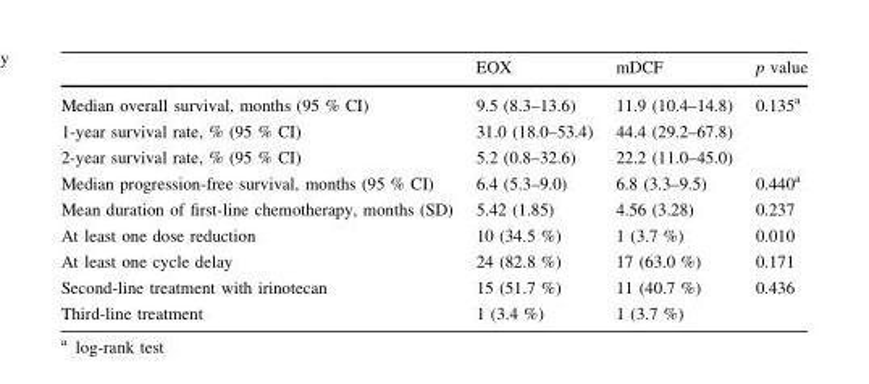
<table><thead><tr><td></td><td>EOX</td><td>mDCF</td><td>p value</td></tr></thead><tbody><tr><td>Median overall survival, months (95 % CI)</td><td>9.5 (8.3–13.6)</td><td>11.9 (10.4–14.8)</td><td>0.135<sup>a</sup></td></tr><tr><td>1-year survival rate, % (95 % CI)</td><td>31.0 (18.0–53.4)</td><td>44.4 (29.2–67.8)</td><td></td></tr><tr><td>2-year survival rate, % (95 % CI)</td><td>5.2 (0.8–32.6)</td><td>22.2 (11.0–45.0)</td><td></td></tr><tr><td>Median progression-free survival, months (95 % CI)</td><td>6.4 (5.3–9.0)</td><td>6.8 (3.3–9.5)</td><td>0.440<sup>a</sup></td></tr><tr><td>Mean duration of first-line chemotherapy, months (SD)</td><td>5.42 (1.85)</td><td>4.56 (3.28)</td><td>0.237</td></tr><tr><td>At least one dose reduction</td><td>10 (34.5 %)</td><td>1 (3.7 %)</td><td>0.010</td></tr><tr><td>At least one cycle delay</td><td>24 (82.8 %)</td><td>17 (63.0 %)</td><td>0.171</td></tr><tr><td>Second-line treatment with irinotecan</td><td>15 (51.7 %)</td><td>11 (40.7 %)</td><td>0.436</td></tr><tr><td>Third-line treatment</td><td>1 (3.4 %)</td><td>1 (3.7 %)</td><td></td></tr></tbody></table>